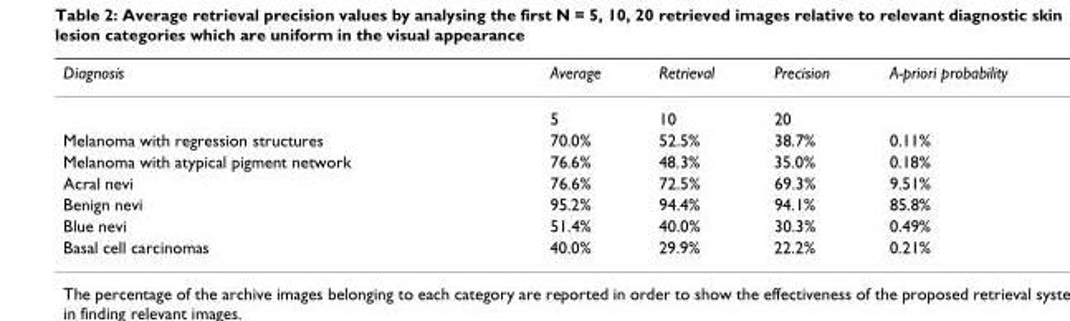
<table><thead><tr><td>Diagnosis</td><td>Average</td><td>Retrieval</td><td>Precision</td><td>A-priori probability</td></tr></thead><tbody><tr><td></td><td>5</td><td>10</td><td>20</td><td></td></tr><tr><td>Melanoma with regression structures</td><td>70.0%</td><td>52.5%</td><td>38.7%</td><td>0.11%</td></tr><tr><td>Melanoma with atypical pigment network</td><td>76.6%</td><td>48.3%</td><td>35.0%</td><td>0.18%</td></tr><tr><td>Acral nevi</td><td>76.6%</td><td>72.5%</td><td>69.3%</td><td>9.51%</td></tr><tr><td>Benign nevi</td><td>95.2%</td><td>94.4%</td><td>94.1%</td><td>85.8%</td></tr><tr><td>Blue nevi</td><td>51.4%</td><td>40.0%</td><td>30.3%</td><td>0.49%</td></tr><tr><td>Basal cell carcinomas</td><td>40.0%</td><td>29.9%</td><td>22.2%</td><td>0.21%</td></tr></tbody></table>